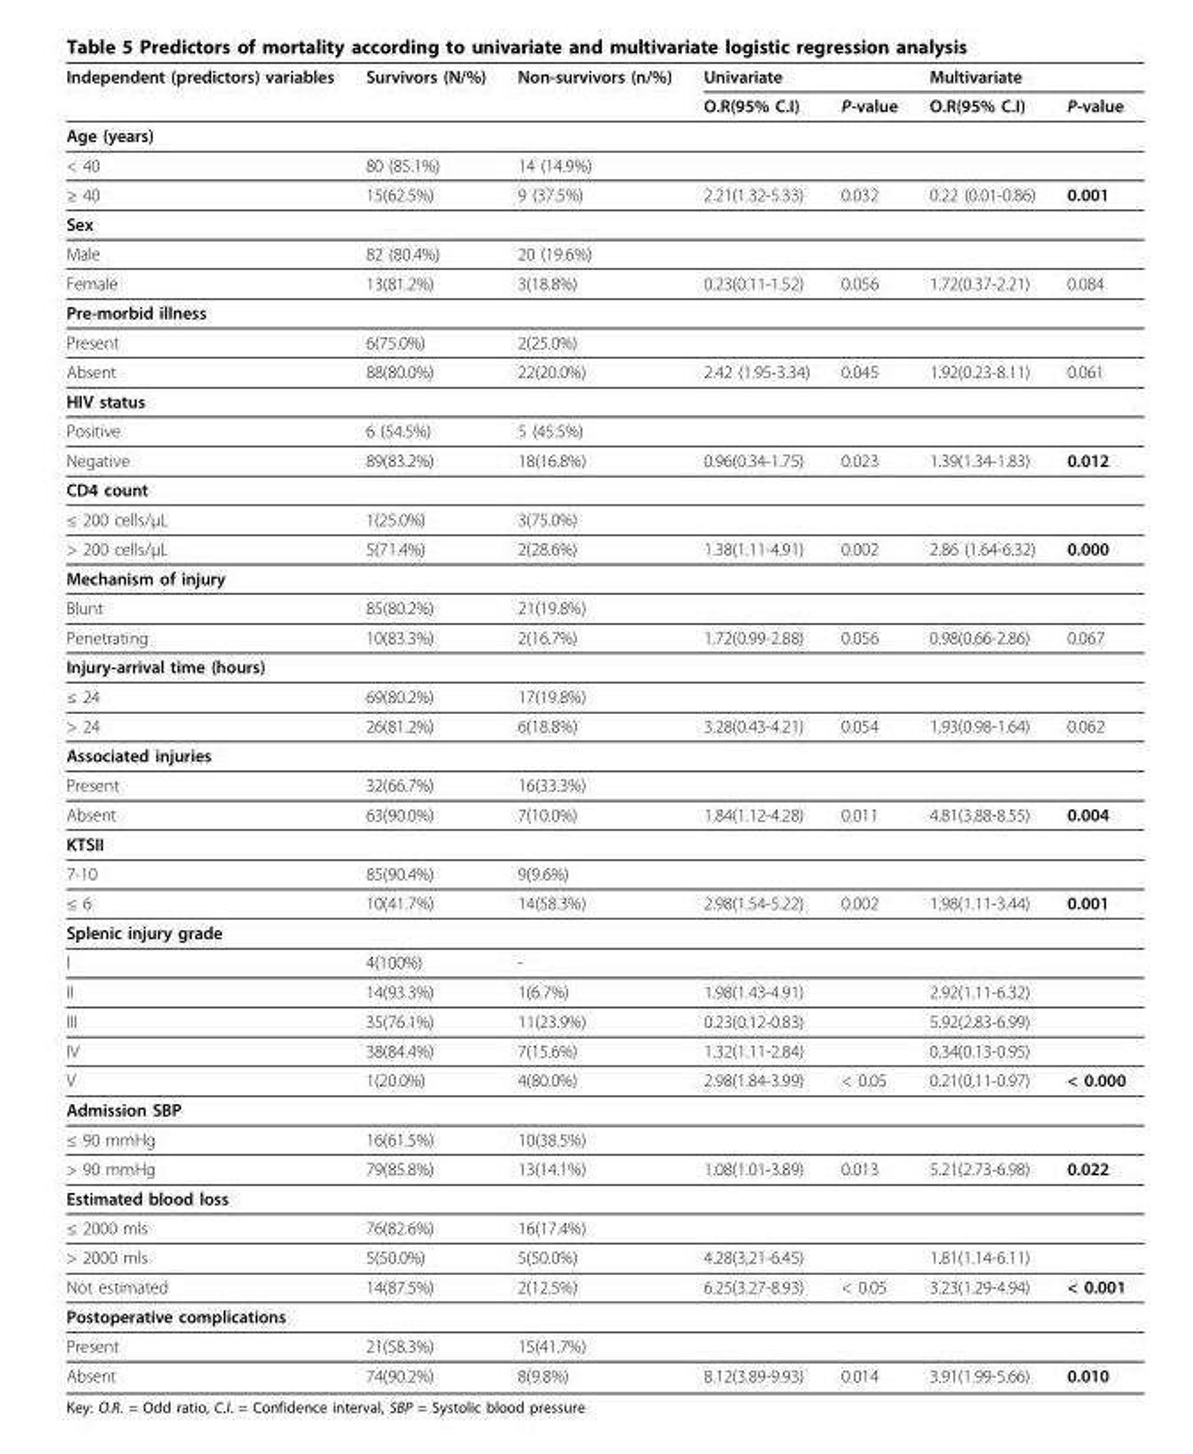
<table><thead><tr><td rowspan="2">Independent (predictors) variables</td><td rowspan="2">Survivors (N/%)</td><td rowspan="2">Non-survivors (n/%)</td><td colspan="2">Univariate</td><td colspan="2">Multivariate</td></tr><tr><td>O.R(95% C.I)</td><td>P-value</td><td>O.R(95% C.I)</td><td>P-value</td></tr></thead><tbody><tr><td colspan="7">Age (years)</td></tr><tr><td>&lt; 40</td><td>80 (85.1%)</td><td>14 (14.9%)</td><td></td><td></td><td></td><td></td></tr><tr><td>≥ 40</td><td>15(62.5%)</td><td>9 (37.5%)</td><td>2.21(1.32-5.33)</td><td>0.032</td><td>0.22 (0.01-0.86)</td><td>0.001</td></tr><tr><td colspan="7">Sex</td></tr><tr><td>Male</td><td>82 (80.4%)</td><td>20 (19.6%)</td><td></td><td></td><td></td><td></td></tr><tr><td>Female</td><td>13(81.2%)</td><td>3(18.8%)</td><td>0.23(0.11-1.52)</td><td>0.056</td><td>1.72(0.37-2.21)</td><td>0.084</td></tr><tr><td colspan="7">Pre-morbid illness</td></tr><tr><td>Present</td><td>6(75.0%)</td><td>2(25.0%)</td><td></td><td></td><td></td><td></td></tr><tr><td>Absent</td><td>88(80.0%)</td><td>22(20.0%)</td><td>2.42 (1.95-3.34)</td><td>0.045</td><td>1.92(0.23-8.11)</td><td>0.061</td></tr><tr><td colspan="7">HIV status</td></tr><tr><td>Positive</td><td>6 (54.5%)</td><td>5 (45.5%)</td><td></td><td></td><td></td><td></td></tr><tr><td>Negative</td><td>89(83.2%)</td><td>18(16.8%)</td><td>0.96(0.34-1.75)</td><td>0.023</td><td>1.39(1.34-1.83)</td><td>0.012</td></tr><tr><td colspan="7">CD4 count</td></tr><tr><td>≤ 200 cells/μL</td><td>1(25.0%)</td><td>3(75.0%)</td><td></td><td></td><td></td><td></td></tr><tr><td>&gt; 200 cells/μL</td><td>5(71.4%)</td><td>2(28.6%)</td><td>1.38(1.11-4.91)</td><td>0.002</td><td>2.86 (1.64-6.32)</td><td>0.000</td></tr><tr><td colspan="7">Mechanism of injury</td></tr><tr><td>Blunt</td><td>85(80.2%)</td><td>21(19.8%)</td><td></td><td></td><td></td><td></td></tr><tr><td>Penetrating</td><td>10(83.3%)</td><td>2(16.7%)</td><td>1.72(0.99-2.88)</td><td>0.056</td><td>0.98(0.66-2.86)</td><td>0.067</td></tr><tr><td colspan="7">Injury-arrival time (hours)</td></tr><tr><td>≤ 24</td><td>69(80.2%)</td><td>17(19.8%)</td><td></td><td></td><td></td><td></td></tr><tr><td>&gt; 24</td><td>26(81.2%)</td><td>6(18.8%)</td><td>3.28(0.43-4.21)</td><td>0.054</td><td>1.93(0.98-1.64)</td><td>0.062</td></tr><tr><td colspan="7">Associated injuries</td></tr><tr><td>Present</td><td>32(66.7%)</td><td>16(33.3%)</td><td></td><td></td><td></td><td></td></tr><tr><td>Absent</td><td>63(90.0%)</td><td>7(10.0%)</td><td>1.84(1.12-4.28)</td><td>0.011</td><td>4.81(3.88-8.55)</td><td>0.004</td></tr><tr><td colspan="7">KTSII</td></tr><tr><td>7-10</td><td>85(90.4%)</td><td>9(9.6%)</td><td></td><td></td><td></td><td></td></tr><tr><td>≤ 6</td><td>10(41.7%)</td><td>14(58.3%)</td><td>2.98(1.54-5.22)</td><td>0.002</td><td>1.98(1.11-3.44)</td><td>0.001</td></tr><tr><td colspan="7">Splenic injury grade</td></tr><tr><td>I</td><td>4(100%)</td><td>-</td><td></td><td></td><td></td><td></td></tr><tr><td>II</td><td>14(93.3%)</td><td>1(6.7%)</td><td>1.98(1.43-4.91)</td><td></td><td>2.92(1.11-6.32)</td><td></td></tr><tr><td>III</td><td>35(76.1%)</td><td>11(23.9%)</td><td>0.23(0.12-0.83)</td><td></td><td>5.92(2.83-6.99)</td><td></td></tr><tr><td>IV</td><td>38(84.4%)</td><td>7(15.6%)</td><td>1.32(1.11-2.84)</td><td></td><td>0.34(0.13-0.95)</td><td></td></tr><tr><td>V</td><td>1(20.0%)</td><td>4(80.0%)</td><td>2.98(1.84-3.99)</td><td>&lt; 0.05</td><td>0.21(0,11-0.97)</td><td>&lt; 0.000</td></tr><tr><td colspan="7">Admission SBP</td></tr><tr><td>≤ 90 mmHg</td><td>16(61.5%)</td><td>10(38.5%)</td><td></td><td></td><td></td><td></td></tr><tr><td>&gt; 90 mmHg</td><td>79(85.8%)</td><td>13(14.1%)</td><td>1.08(1.01-3.89)</td><td>0.013</td><td>5.21(2.73-6.98)</td><td>0.022</td></tr><tr><td colspan="7">Estimated blood loss</td></tr><tr><td>≤ 2000 mls</td><td>76(82.6%)</td><td>16(17.4%)</td><td></td><td></td><td></td><td></td></tr><tr><td>&gt; 2000 mls</td><td>5(50.0%)</td><td>5(50.0%)</td><td>4.28(3,21-6.45)</td><td></td><td>1.81(1.14-6.11)</td><td></td></tr><tr><td>Not estimated</td><td>14(87.5%)</td><td>2(12.5%)</td><td>6.25(3.27-8.93)</td><td>&lt; 0.05</td><td>3.23(1.29-4.94)</td><td>&lt; 0.001</td></tr><tr><td colspan="7">Postoperative complications</td></tr><tr><td>Present</td><td>21(58.3%)</td><td>15(41.7%)</td><td></td><td></td><td></td><td></td></tr><tr><td>Absent</td><td>74(90.2%)</td><td>8(9.8%)</td><td>8.12(3.89-9.93)</td><td>0.014</td><td>3.91(1.99-5.66)</td><td>0.010</td></tr></tbody></table>